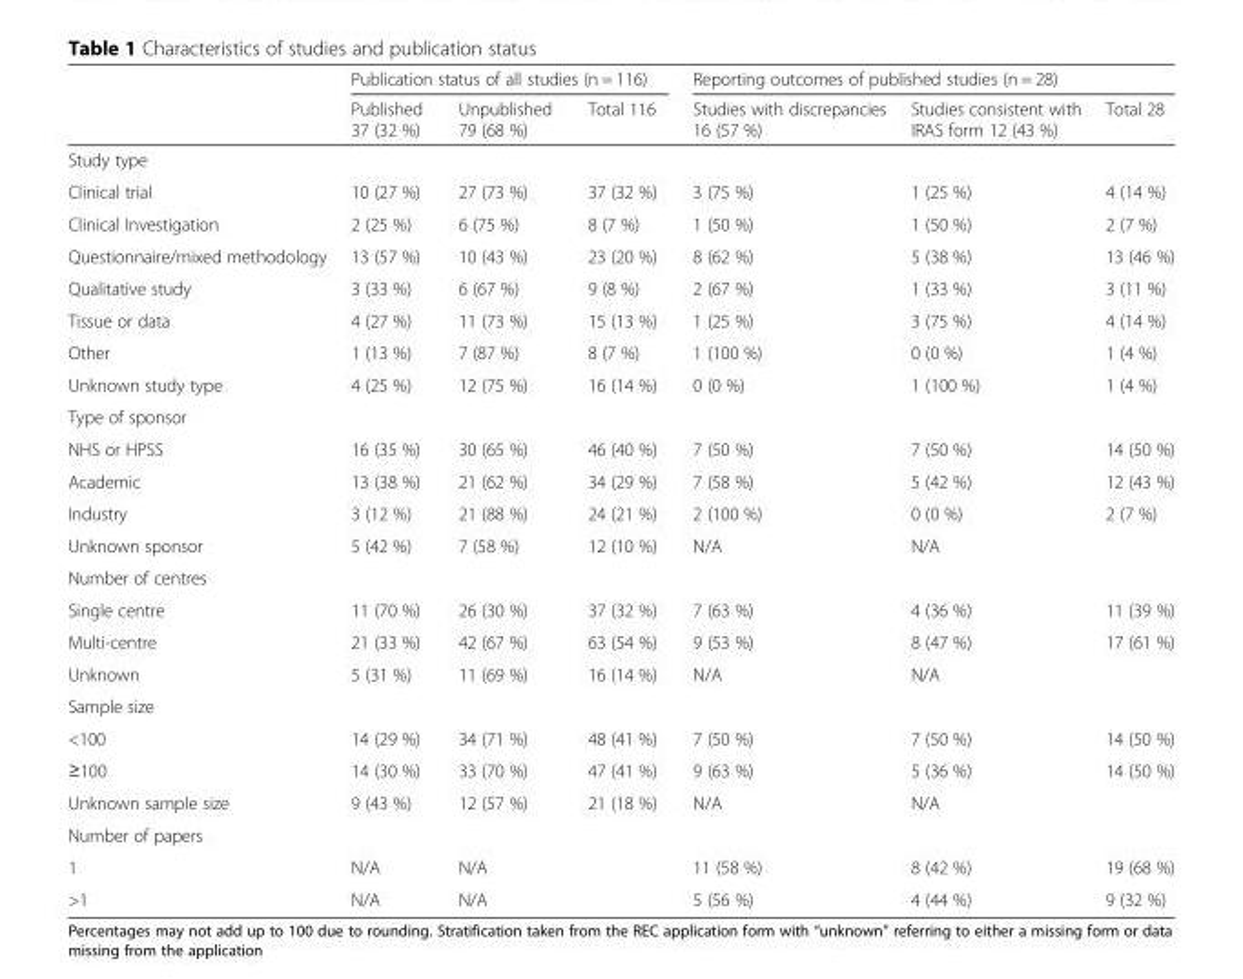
<table><thead><tr><td rowspan="2"></td><td colspan="3">Publication status of all studies (n = 116)</td><td colspan="3">Reporting outcomes of published studies (n = 28)</td></tr><tr><td>Published 37 (32 %)</td><td>Unpublished 79 (68 %)</td><td>Total 116</td><td>Studies with discrepancies 16 (57 %)</td><td>Studies consistent with IRAS form 12 (43 %)</td><td>Total 28</td></tr></thead><tbody><tr><td colspan="7">Study type</td></tr><tr><td>Clinical trial</td><td>10 (27 %)</td><td>27 (73 %)</td><td>37 (32 %)</td><td>3 (75 %)</td><td>1 (25 %)</td><td>4 (14 %)</td></tr><tr><td>Clinical Investigation</td><td>2 (25 %)</td><td>6 (75 %)</td><td>8 (7 %)</td><td>1 (50 %)</td><td>1 (50 %)</td><td>2 (7 %)</td></tr><tr><td>Questionnaire/mixed methodology</td><td>13 (57 %)</td><td>10 (43 %)</td><td>23 (20 %)</td><td>8 (62 %)</td><td>5 (38 %)</td><td>13 (46 %)</td></tr><tr><td>Qualitative study</td><td>3 (33 %)</td><td>6 (67 %)</td><td>9 (8 %)</td><td>2 (67 %)</td><td>1 (33 %)</td><td>3 (11 %)</td></tr><tr><td>Tissue or data</td><td>4 (27 %)</td><td>11 (73 %)</td><td>15 (13 %)</td><td>1 (25 %)</td><td>3 (75 %)</td><td>4 (14 %)</td></tr><tr><td>Other</td><td>1 (13 %)</td><td>7 (87 %)</td><td>8 (7 %)</td><td>1 (100 %)</td><td>0 (0 %)</td><td>1 (4 %)</td></tr><tr><td>Unknown study type</td><td>4 (25 %)</td><td>12 (75 %)</td><td>16 (14 %)</td><td>0 (0 %)</td><td>1 (100 %)</td><td>1 (4 %)</td></tr><tr><td colspan="7">Type of sponsor</td></tr><tr><td>NHS or HPSS</td><td>16 (35 %)</td><td>30 (65 %)</td><td>46 (40 %)</td><td>7 (50 %)</td><td>7 (50 %)</td><td>14 (50 %)</td></tr><tr><td>Academic</td><td>13 (38 %)</td><td>21 (62 %)</td><td>34 (29 %)</td><td>7 (58 %)</td><td>5 (42 %)</td><td>12 (43 %)</td></tr><tr><td>Industry</td><td>3 (12 %)</td><td>21 (88 %)</td><td>24 (21 %)</td><td>2 (100 %)</td><td>0 (0 %)</td><td>2 (7 %)</td></tr><tr><td>Unknown sponsor</td><td>5 (42 %)</td><td>7 (58 %)</td><td>12 (10 %)</td><td>N/A</td><td>N/A</td><td></td></tr><tr><td colspan="7">Number of centres</td></tr><tr><td>Single centre</td><td>11 (70 %)</td><td>26 (30 %)</td><td>37 (32 %)</td><td>7 (63 %)</td><td>4 (36 %)</td><td>11 (39 %)</td></tr><tr><td>Multi-centre</td><td>21 (33 %)</td><td>42 (67 %)</td><td>63 (54 %)</td><td>9 (53 %)</td><td>8 (47 %)</td><td>17 (61 %)</td></tr><tr><td>Unknown</td><td>5 (31 %)</td><td>11 (69 %)</td><td>16 (14 %)</td><td>N/A</td><td>N/A</td><td></td></tr><tr><td colspan="7">Sample size</td></tr><tr><td>&lt;100</td><td>14 (29 %)</td><td>34 (71 %)</td><td>48 (41 %)</td><td>7 (50 %)</td><td>7 (50 %)</td><td>14 (50 %)</td></tr><tr><td>≥100</td><td>14 (30 %)</td><td>33 (70 %)</td><td>47 (41 %)</td><td>9 (63 %)</td><td>5 (36 %)</td><td>14 (50 %)</td></tr><tr><td>Unknown sample size</td><td>9 (43 %)</td><td>12 (57 %)</td><td>21 (18 %)</td><td>N/A</td><td>N/A</td><td></td></tr><tr><td colspan="7">Number of papers</td></tr><tr><td>1</td><td>N/A</td><td>N/A</td><td></td><td>11 (58 %)</td><td>8 (42 %)</td><td>19 (68 %)</td></tr><tr><td>&gt;1</td><td>N/A</td><td>N/A</td><td></td><td>5 (56 %)</td><td>4 (44 %)</td><td>9 (32 %)</td></tr></tbody></table>